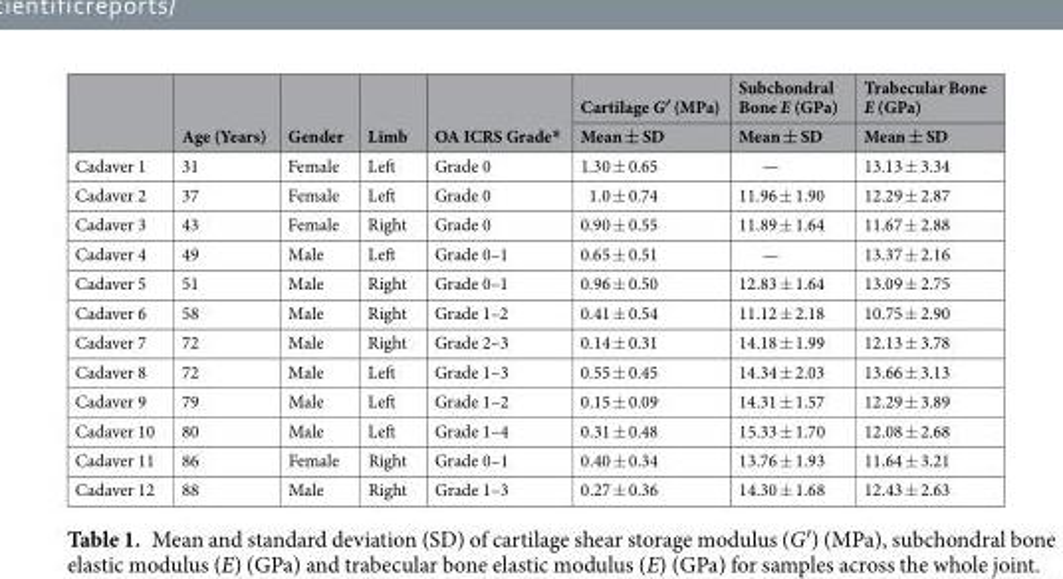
<table><thead><tr><td rowspan="2"></td><td rowspan="2">Age (Years)</td><td rowspan="2">Gender</td><td rowspan="2">Limb</td><td rowspan="2">OA ICRS Grade*</td><td rowspan="2">Cartilage G′ (MPa) Mean ± SD</td><td rowspan="2">Subchondral Bone E (GPa) Mean ± SD</td><td rowspan="2">Trabecular Bone E (GPa) Mean ± SD</td></tr><tr></tr></thead><tbody><tr><td>Cadaver 1</td><td>31</td><td>Female</td><td>Left</td><td>Grade 0</td><td>1.30 ± 0.65</td><td>—</td><td>13.13 ± 3.34</td></tr><tr><td>Cadaver 2</td><td>37</td><td>Female</td><td>Left</td><td>Grade 0</td><td>1.0 ± 0.74</td><td>11.96 ± 1.90</td><td>12.29 ± 2.87</td></tr><tr><td>Cadaver 3</td><td>43</td><td>Female</td><td>Right</td><td>Grade 0</td><td>0.90 ± 0.55</td><td>11.89 ± 1.64</td><td>11.67 ± 2.88</td></tr><tr><td>Cadaver 4</td><td>49</td><td>Male</td><td>Left</td><td>Grade 0–1</td><td>0.65 ± 0.51</td><td>—</td><td>13.37 ± 2.16</td></tr><tr><td>Cadaver 5</td><td>51</td><td>Male</td><td>Right</td><td>Grade 0–1</td><td>0.96 ± 0.50</td><td>12.83 ± 1.64</td><td>13.09 ± 2.75</td></tr><tr><td>Cadaver 6</td><td>58</td><td>Male</td><td>Right</td><td>Grade 1–2</td><td>0.41 ± 0.54</td><td>11.12 ± 2.18</td><td>10.75 ± 2.90</td></tr><tr><td>Cadaver 7</td><td>72</td><td>Male</td><td>Right</td><td>Grade 2–3</td><td>0.14 ± 0.31</td><td>14.18 ± 1.99</td><td>12.13 ± 3.78</td></tr><tr><td>Cadaver 8</td><td>72</td><td>Male</td><td>Left</td><td>Grade 1–3</td><td>0.55 ± 0.45</td><td>14.34 ± 2.03</td><td>13.66 ± 3.13</td></tr><tr><td>Cadaver 9</td><td>79</td><td>Male</td><td>Left</td><td>Grade 1–2</td><td>0.15 ± 0.09</td><td>14.31 ± 1.57</td><td>12.29 ± 3.89</td></tr><tr><td>Cadaver 10</td><td>80</td><td>Male</td><td>Left</td><td>Grade 1–4</td><td>0.31 ± 0.48</td><td>15.33 ± 1.70</td><td>12.08 ± 2.68</td></tr><tr><td>Cadaver 11</td><td>86</td><td>Female</td><td>Right</td><td>Grade 0–1</td><td>0.40 ± 0.34</td><td>13.76 ± 1.93</td><td>11.64 ± 3.21</td></tr><tr><td>Cadaver 12</td><td>88</td><td>Male</td><td>Right</td><td>Grade 1–3</td><td>0.27 ± 0.36</td><td>14.30 ± 1.68</td><td>12.43 ± 2.63</td></tr></tbody></table>